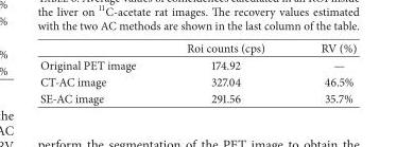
<table><thead><tr><td></td><td>Roi counts (cps)</td><td>RV (%)</td></tr></thead><tbody><tr><td>Original PET image</td><td>174.92</td><td>—</td></tr><tr><td>CT-AC image</td><td>327.04</td><td>46.5%</td></tr><tr><td>SE-AC image</td><td>291.56</td><td>35.7%</td></tr></tbody></table>